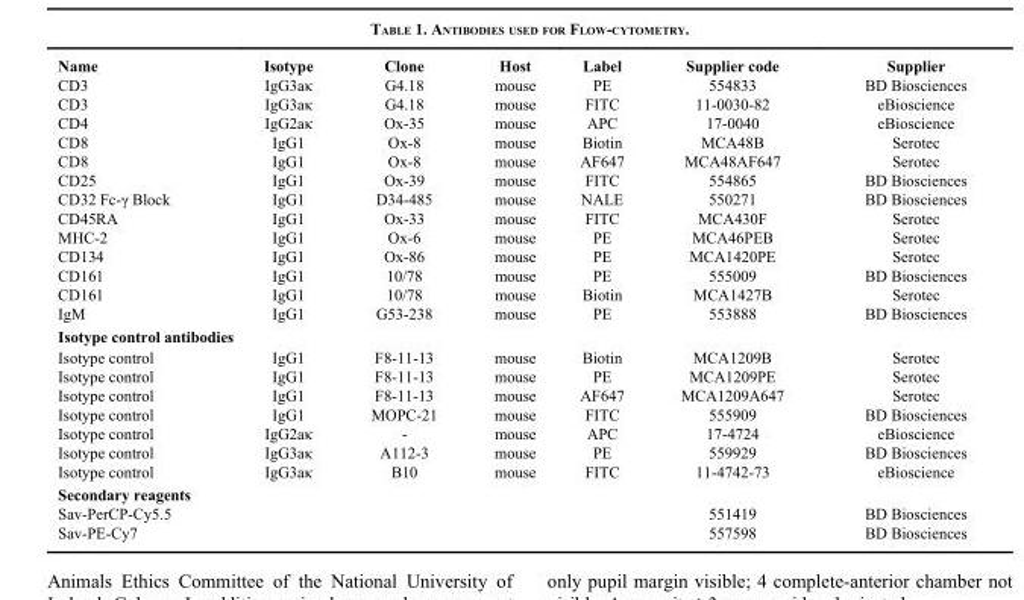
<table><thead><tr><td>Name</td><td>Isotype</td><td>Clone</td><td>Host</td><td>Label</td><td>Supplier code</td><td>Supplier</td></tr></thead><tbody><tr><td>CD3</td><td>IgG3aκ</td><td>G4.18</td><td>mouse</td><td>PE</td><td>554833</td><td>BD Biosciences</td></tr><tr><td>CD3</td><td>IgG3aκ</td><td>G4.18</td><td>mouse</td><td>FITC</td><td>11-0030-82</td><td>eBioscience</td></tr><tr><td>CD4</td><td>IgG2aκ</td><td>Ox-35</td><td>mouse</td><td>APC</td><td>17-0040</td><td>eBioscience</td></tr><tr><td>CD8</td><td>IgG1</td><td>Ox-8</td><td>mouse</td><td>Biotin</td><td>MCA48B</td><td>Serotec</td></tr><tr><td>CD8</td><td>IgG1</td><td>Ox-8</td><td>mouse</td><td>AF647</td><td>MCA48AF647</td><td>Serotec</td></tr><tr><td>CD25</td><td>IgG1</td><td>Ox-39</td><td>mouse</td><td>FITC</td><td>554865</td><td>BD Biosciences</td></tr><tr><td>CD32 Fc-γ Block</td><td>IgG1</td><td>D34-485</td><td>mouse</td><td>NALE</td><td>550271</td><td>BD Biosciences</td></tr><tr><td>CD45RA</td><td>IgG1</td><td>Ox-33</td><td>mouse</td><td>FITC</td><td>MCA430F</td><td>Serotec</td></tr><tr><td>MHC-2</td><td>IgG1</td><td>Ox-6</td><td>mouse</td><td>PE</td><td>MCA46PEB</td><td>Serotec</td></tr><tr><td>CD134</td><td>IgG1</td><td>Ox-86</td><td>mouse</td><td>PE</td><td>MCA1420PE</td><td>Serotec</td></tr><tr><td>CD161</td><td>IgG1</td><td>10/78</td><td>mouse</td><td>PE</td><td>555009</td><td>BD Biosciences</td></tr><tr><td>CD161</td><td>IgG1</td><td>10/78</td><td>mouse</td><td>Biotin</td><td>MCA1427B</td><td>Serotec</td></tr><tr><td>IgM</td><td>IgG1</td><td>G53-238</td><td>mouse</td><td>PE</td><td>553888</td><td>BD Biosciences</td></tr><tr><td colspan="7">Isotype control antibodies</td></tr><tr><td>Isotype control</td><td>IgG1</td><td>F8-11-13</td><td>mouse</td><td>Biotin</td><td>MCA1209B</td><td>Serotec</td></tr><tr><td>Isotype control</td><td>IgG1</td><td>F8-11-13</td><td>mouse</td><td>PE</td><td>MCA1209PE</td><td>Serotec</td></tr><tr><td>Isotype control</td><td>IgG1</td><td>F8-11-13</td><td>mouse</td><td>AF647</td><td>MCA1209A647</td><td>Serotec</td></tr><tr><td>Isotype control</td><td>IgG1</td><td>MOPC-21</td><td>mouse</td><td>FITC</td><td>555909</td><td>BD Biosciences</td></tr><tr><td>Isotype control</td><td>IgG2aκ</td><td>-</td><td>mouse</td><td>APC</td><td>17-4724</td><td>eBioscience</td></tr><tr><td>Isotype control</td><td>IgG3aκ</td><td>A112-3</td><td>mouse</td><td>PE</td><td>559929</td><td>BD Biosciences</td></tr><tr><td>Isotype control</td><td>IgG3aκ</td><td>B10</td><td>mouse</td><td>FITC</td><td>11-4742-73</td><td>eBioscience</td></tr><tr><td colspan="7">Secondary reagents</td></tr><tr><td>Sav-PerCP-Cy5.5</td><td></td><td></td><td></td><td></td><td>551419</td><td>BD Biosciences</td></tr><tr><td>Sav-PE-Cy7</td><td></td><td></td><td></td><td></td><td>557598</td><td>BD Biosciences</td></tr></tbody></table>